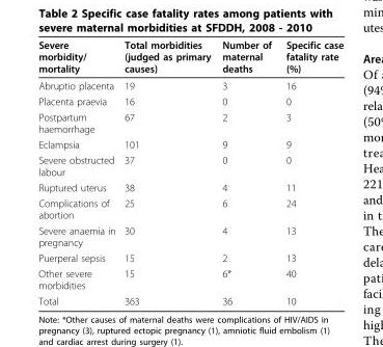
<table><thead><tr><td>Severe morbidity/ mortality</td><td>Total morbidities (judged as primary causes)</td><td>Number of maternal deaths</td><td>Specific case fatality rate (%)</td></tr></thead><tbody><tr><td>Abruptio placenta</td><td>19</td><td>3</td><td>16</td></tr><tr><td>Placenta praevia</td><td>16</td><td>0</td><td>0</td></tr><tr><td>Postpartum haemorrhage</td><td>67</td><td>2</td><td>3</td></tr><tr><td>Eclampsia</td><td>101</td><td>9</td><td>9</td></tr><tr><td>Severe obstructed labour</td><td>37</td><td>0</td><td>0</td></tr><tr><td>Ruptured uterus</td><td>38</td><td>4</td><td>11</td></tr><tr><td>Complications of abortion</td><td>25</td><td>6</td><td>24</td></tr><tr><td>Severe anaemia in pregnancy</td><td>30</td><td>4</td><td>13</td></tr><tr><td>Puerperal sepsis</td><td>15</td><td>2</td><td>13</td></tr><tr><td>Other severe morbidities</td><td>15</td><td>6*</td><td>40</td></tr><tr><td>Total</td><td>363</td><td>36</td><td>10</td></tr></tbody></table>